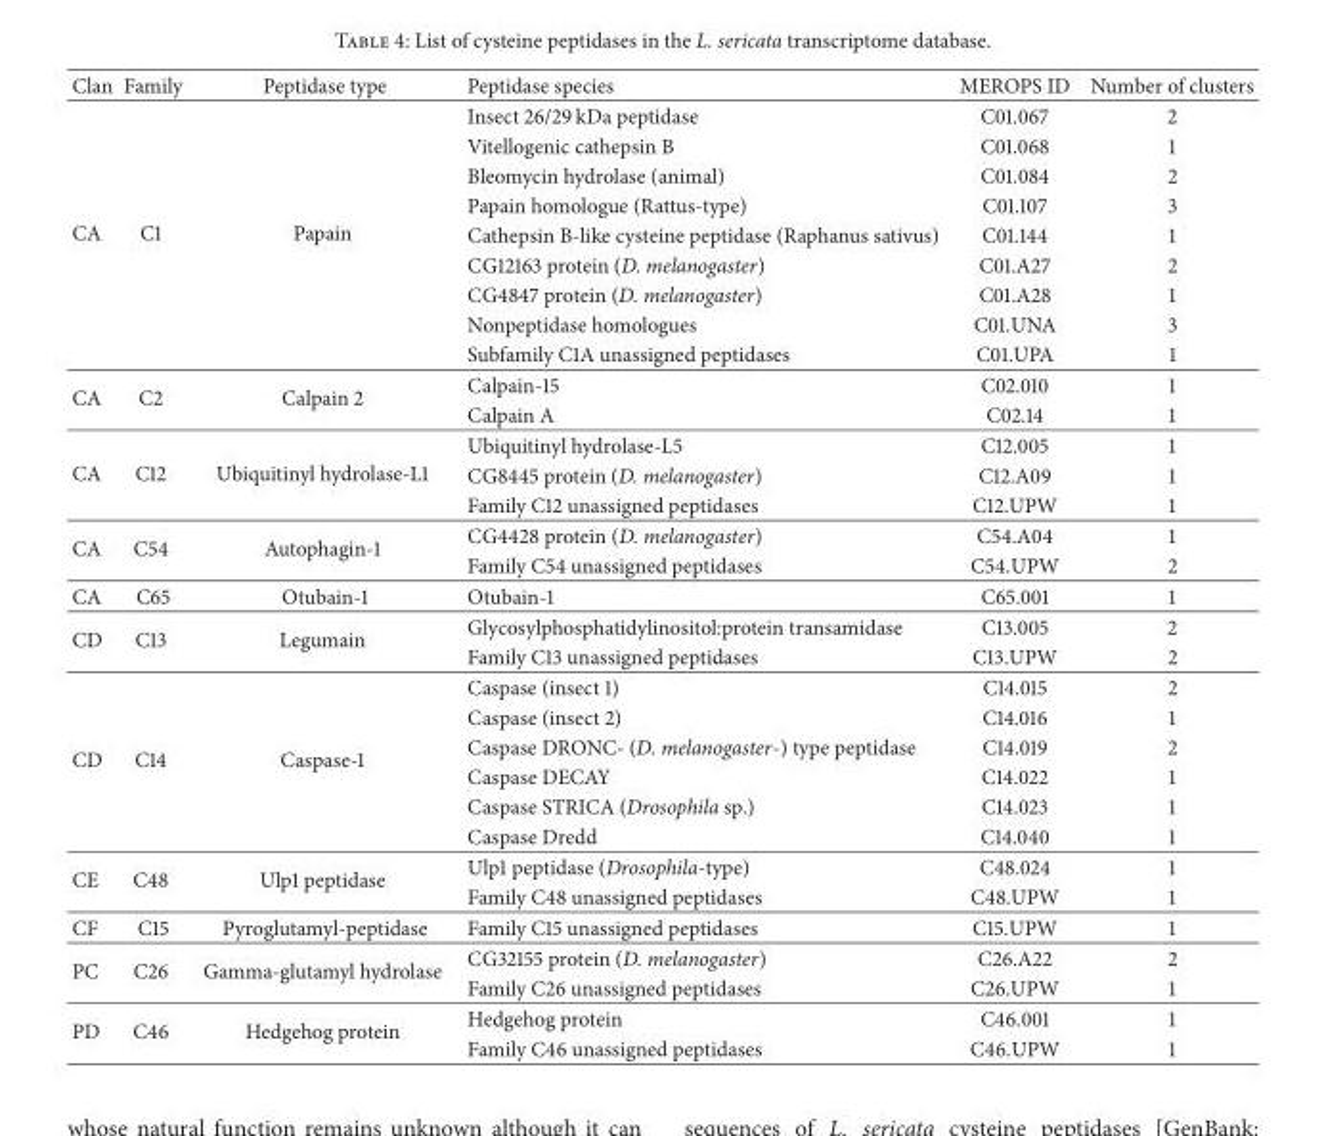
<table><thead><tr><td>Clan</td><td>Family</td><td>Peptidase type</td><td>Peptidase species</td><td>MEROPS ID</td><td>Number of clusters</td></tr></thead><tbody><tr><td rowspan="9">CA</td><td rowspan="9">C1</td><td rowspan="9">Papain</td><td>Insect 26/29 kDa peptidase</td><td>C01.067</td><td>2</td></tr><tr><td>Vitellogenic cathepsin B</td><td>C01.068</td><td>1</td></tr><tr><td>Bleomycin hydrolase (animal)</td><td>C01.084</td><td>2</td></tr><tr><td>Papain homologue (Rattus-type)</td><td>C01.107</td><td>3</td></tr><tr><td>Cathepsin B-like cysteine peptidase (Raphanus sativus)</td><td>C01.144</td><td>1</td></tr><tr><td>CG12163 protein (D. melanogaster)</td><td>C01.A27</td><td>2</td></tr><tr><td>CG4847 protein (D. melanogaster)</td><td>C01.A28</td><td>1</td></tr><tr><td>Nonpeptidase homologues</td><td>C01.UNA</td><td>3</td></tr><tr><td>Subfamily C1A unassigned peptidases</td><td>C01.UPA</td><td>1</td></tr><tr><td rowspan="2">CA</td><td rowspan="2">C2</td><td rowspan="2">Calpain 2</td><td>Calpain-15</td><td>C02.010</td><td>1</td></tr><tr><td>Calpain A</td><td>C02.14</td><td>1</td></tr><tr><td rowspan="3">CA</td><td rowspan="3">C12</td><td rowspan="3">Ubiquitinyl hydrolase-L1</td><td>Ubiquitinyl hydrolase-L5</td><td>C12.005</td><td>1</td></tr><tr><td>CG8445 protein (D. melanogaster)</td><td>C12.A09</td><td>1</td></tr><tr><td>Family C12 unassigned peptidases</td><td>C12.UPW</td><td>1</td></tr><tr><td rowspan="2">CA</td><td rowspan="2">C54</td><td rowspan="2">Autophagin-1</td><td>CG4428 protein (D. melanogaster)</td><td>C54.A04</td><td>1</td></tr><tr><td>Family C54 unassigned peptidases</td><td>C54.UPW</td><td>2</td></tr><tr><td>CA</td><td>C65</td><td>Otubain-1</td><td>Otubain-1</td><td>C65.001</td><td>1</td></tr><tr><td rowspan="2">CD</td><td rowspan="2">C13</td><td rowspan="2">Legumain</td><td>Glycosylphosphatidylinositol:protein transamidase</td><td>C13.005</td><td>2</td></tr><tr><td>Family C13 unassigned peptidases</td><td>C13.UPW</td><td>2</td></tr><tr><td rowspan="6">CD</td><td rowspan="6">C14</td><td rowspan="6">Caspase-1</td><td>Caspase (insect 1)</td><td>C14.015</td><td>2</td></tr><tr><td>Caspase (insect 2)</td><td>C14.016</td><td>1</td></tr><tr><td>Caspase DRONC- (D. melanogaster-) type peptidase</td><td>C14.019</td><td>2</td></tr><tr><td>Caspase DECAY</td><td>C14.022</td><td>1</td></tr><tr><td>Caspase STRICA (Drosophila sp.)</td><td>C14.023</td><td>1</td></tr><tr><td>Caspase Dredd</td><td>C14.040</td><td>1</td></tr><tr><td rowspan="2">CE</td><td rowspan="2">C48</td><td rowspan="2">Ulp1 peptidase</td><td>Ulp1 peptidase (Drosophila-type)</td><td>C48.024</td><td>1</td></tr><tr><td>Family C48 unassigned peptidases</td><td>C48.UPW</td><td>1</td></tr><tr><td>CF</td><td>C15</td><td>Pyroglutamyl-peptidase</td><td>Family C15 unassigned peptidases</td><td>C15.UPW</td><td>1</td></tr><tr><td rowspan="2">PC</td><td rowspan="2">C26</td><td rowspan="2">Gamma-glutamyl hydrolase</td><td>CG32155 protein (D. melanogaster)</td><td>C26.A22</td><td>2</td></tr><tr><td>Family C26 unassigned peptidases</td><td>C26.UPW</td><td>1</td></tr><tr><td rowspan="2">PD</td><td rowspan="2">C46</td><td rowspan="2">Hedgehog protein</td><td>Hedgehog protein</td><td>C46.001</td><td>1</td></tr><tr><td>Family C46 unassigned peptidases</td><td>C46.UPW</td><td>1</td></tr></tbody></table>